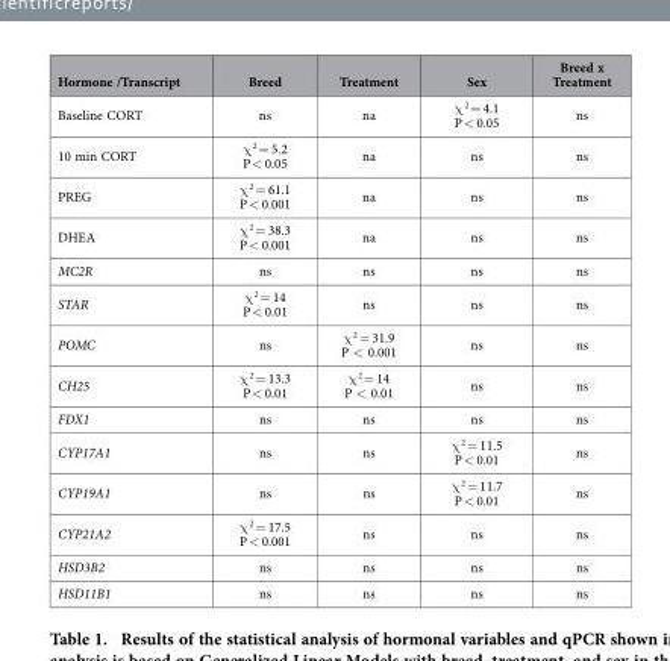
<table><thead><tr><td>Hormone /Transcript</td><td>Breed</td><td>Treatment</td><td>Sex</td><td>Breed x Treatment</td></tr></thead><tbody><tr><td>Baseline CORT</td><td>ns</td><td>na</td><td>χ <sup>2</sup> = 4.1 P &lt; 0.05</td><td>ns</td></tr><tr><td>10 min CORT</td><td>χ <sup>2</sup> = 5.2 P &lt; 0.05</td><td>na</td><td>ns</td><td>ns</td></tr><tr><td>PREG</td><td>χ <sup>2</sup> = 61.1 P &lt; 0.001</td><td>na</td><td>ns</td><td>ns</td></tr><tr><td>DHEA</td><td>χ <sup>2</sup> = 38.3 P &lt; 0.001</td><td>na</td><td>ns</td><td>ns</td></tr><tr><td>MC2R</td><td>ns</td><td>ns</td><td>ns</td><td>ns</td></tr><tr><td>STAR</td><td>χ <sup>2</sup> = 14 P &lt; 0.01</td><td>ns</td><td>ns</td><td>ns</td></tr><tr><td>POMC</td><td>ns</td><td>χ <sup>2</sup> = 31.9 P &lt; 0.001</td><td>ns</td><td>ns</td></tr><tr><td>CH25</td><td>χ <sup>2</sup> = 13.3 P &lt; 0.01</td><td>χ <sup>2</sup> = 14 P &lt; 0.01</td><td>ns</td><td>ns</td></tr><tr><td>FDX1</td><td>ns</td><td>ns</td><td>ns</td><td>ns</td></tr><tr><td>CYP17A1</td><td>ns</td><td>ns</td><td>χ <sup>2</sup> = 11.5 P &lt; 0.01</td><td>ns</td></tr><tr><td>CYP19A1</td><td>ns</td><td>ns</td><td>χ <sup>2</sup> = 11.7 P &lt; 0.01</td><td>ns</td></tr><tr><td>CYP21A2</td><td>χ <sup>2</sup> = 17.5 P &lt; 0.001</td><td>ns</td><td>ns</td><td>ns</td></tr><tr><td>HSD3B2</td><td>ns</td><td>ns</td><td>ns</td><td>ns</td></tr><tr><td>HSD11B1</td><td>ns</td><td>ns</td><td>ns</td><td>ns</td></tr></tbody></table>